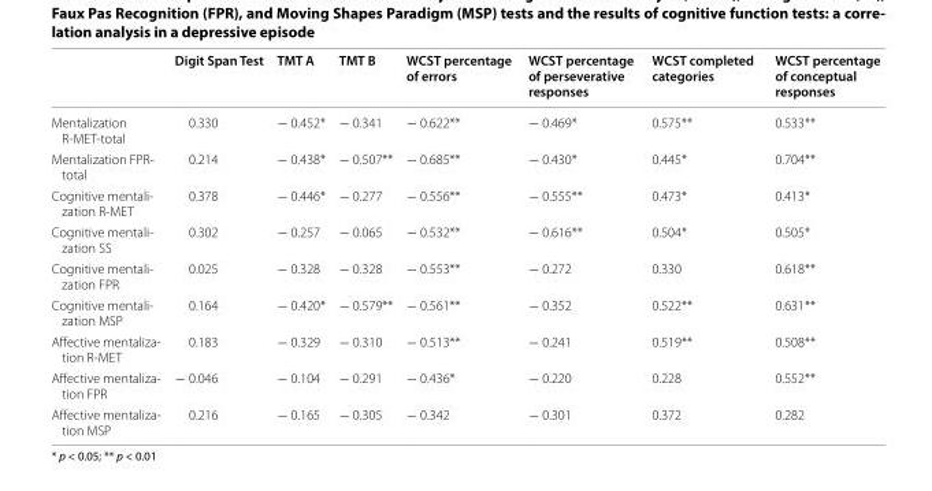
<table><thead><tr><td></td><td>Digit Span Test</td><td>TMT A</td><td>TMT B</td><td>WCST percentage of errors</td><td>WCST percentage of perseverative responses</td><td>WCST completed categories</td><td>WCST percentage of conceptual responses</td></tr></thead><tbody><tr><td>Mentalization R-MET-total</td><td>0.330</td><td>− 0.452*</td><td>− 0.341</td><td>− 0.622**</td><td>− 0.469*</td><td>0.575**</td><td>0.533**</td></tr><tr><td>Mentalization FPR- total</td><td>0.214</td><td>− 0.438*</td><td>− 0.507**</td><td>− 0.685**</td><td>− 0.430*</td><td>0.445*</td><td>0.704**</td></tr><tr><td>Cognitive mentali- zation R-MET</td><td>0.378</td><td>− 0.446*</td><td>− 0.277</td><td>− 0.556**</td><td>− 0.555**</td><td>0.473*</td><td>0.413*</td></tr><tr><td>Cognitive mentali- zation SS</td><td>0.302</td><td>− 0.257</td><td>− 0.065</td><td>− 0.532**</td><td>− 0.616**</td><td>0.504*</td><td>0.505*</td></tr><tr><td>Cognitive mentali- zation FPR</td><td>0.025</td><td>− 0.328</td><td>− 0.328</td><td>− 0.553**</td><td>− 0.272</td><td>0.330</td><td>0.618**</td></tr><tr><td>Cognitive mentali- zation MSP</td><td>0.164</td><td>− 0.420*</td><td>− 0.579**</td><td>− 0.561**</td><td>− 0.352</td><td>0.522**</td><td>0.631**</td></tr><tr><td>Affective mentaliza- tion R-MET</td><td>0.183</td><td>− 0.329</td><td>− 0.310</td><td>− 0.513**</td><td>− 0.241</td><td>0.519**</td><td>0.508**</td></tr><tr><td>Affective mentaliza- tion FPR</td><td>− 0.046</td><td>− 0.104</td><td>− 0.291</td><td>− 0.436*</td><td>− 0.220</td><td>0.228</td><td>0.552**</td></tr><tr><td>Affective mentaliza- tion MSP</td><td>0.216</td><td>− 0.165</td><td>− 0.305</td><td>− 0.342</td><td>− 0.301</td><td>0.372</td><td>0.282</td></tr></tbody></table>